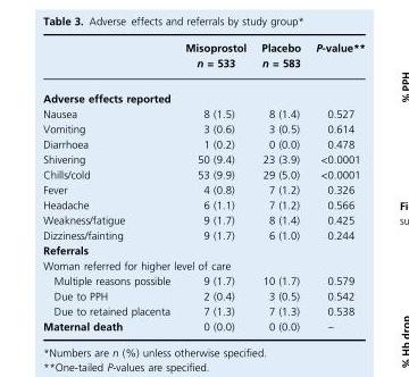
<table><thead><tr><td></td><td>Misoprostol n = 533</td><td>Placebo n = 583</td><td>P-value**</td></tr></thead><tbody><tr><td colspan="4">Adverse effects reported</td></tr><tr><td>Nausea</td><td>8 (1.5)</td><td>8 (1.4)</td><td>0.527</td></tr><tr><td>Vomiting</td><td>3 (0.6)</td><td>3 (0.5)</td><td>0.614</td></tr><tr><td>Diarrhoea</td><td>1 (0.2)</td><td>0 (0.0)</td><td>0.478</td></tr><tr><td>Shivering</td><td>50 (9.4)</td><td>23 (3.9)</td><td>&lt;0.0001</td></tr><tr><td>Chills/cold</td><td>53 (9.9)</td><td>29 (5.0)</td><td>&lt;0.0001</td></tr><tr><td>Fever</td><td>4 (0.8)</td><td>7 (1.2)</td><td>0.326</td></tr><tr><td>Headache</td><td>6 (1.1)</td><td>7 (1.2)</td><td>0.566</td></tr><tr><td>Weakness/fatigue</td><td>9 (1.7)</td><td>8 (1.4)</td><td>0.425</td></tr><tr><td>Dizziness/fainting</td><td>9 (1.7)</td><td>6 (1.0)</td><td>0.244</td></tr><tr><td colspan="4">Referrals</td></tr><tr><td colspan="4">Woman referred for higher level of care</td></tr><tr><td>Multiple reasons possible</td><td>9 (1.7)</td><td>10 (1.7)</td><td>0.579</td></tr><tr><td>Due to PPH</td><td>2 (0.4)</td><td>3 (0.5)</td><td>0.542</td></tr><tr><td>Due to retained placenta</td><td>7 (1.3)</td><td>7 (1.3)</td><td>0.538</td></tr><tr><td>Maternal death</td><td>0 (0.0)</td><td>0 (0.0)</td><td>–</td></tr></tbody></table>